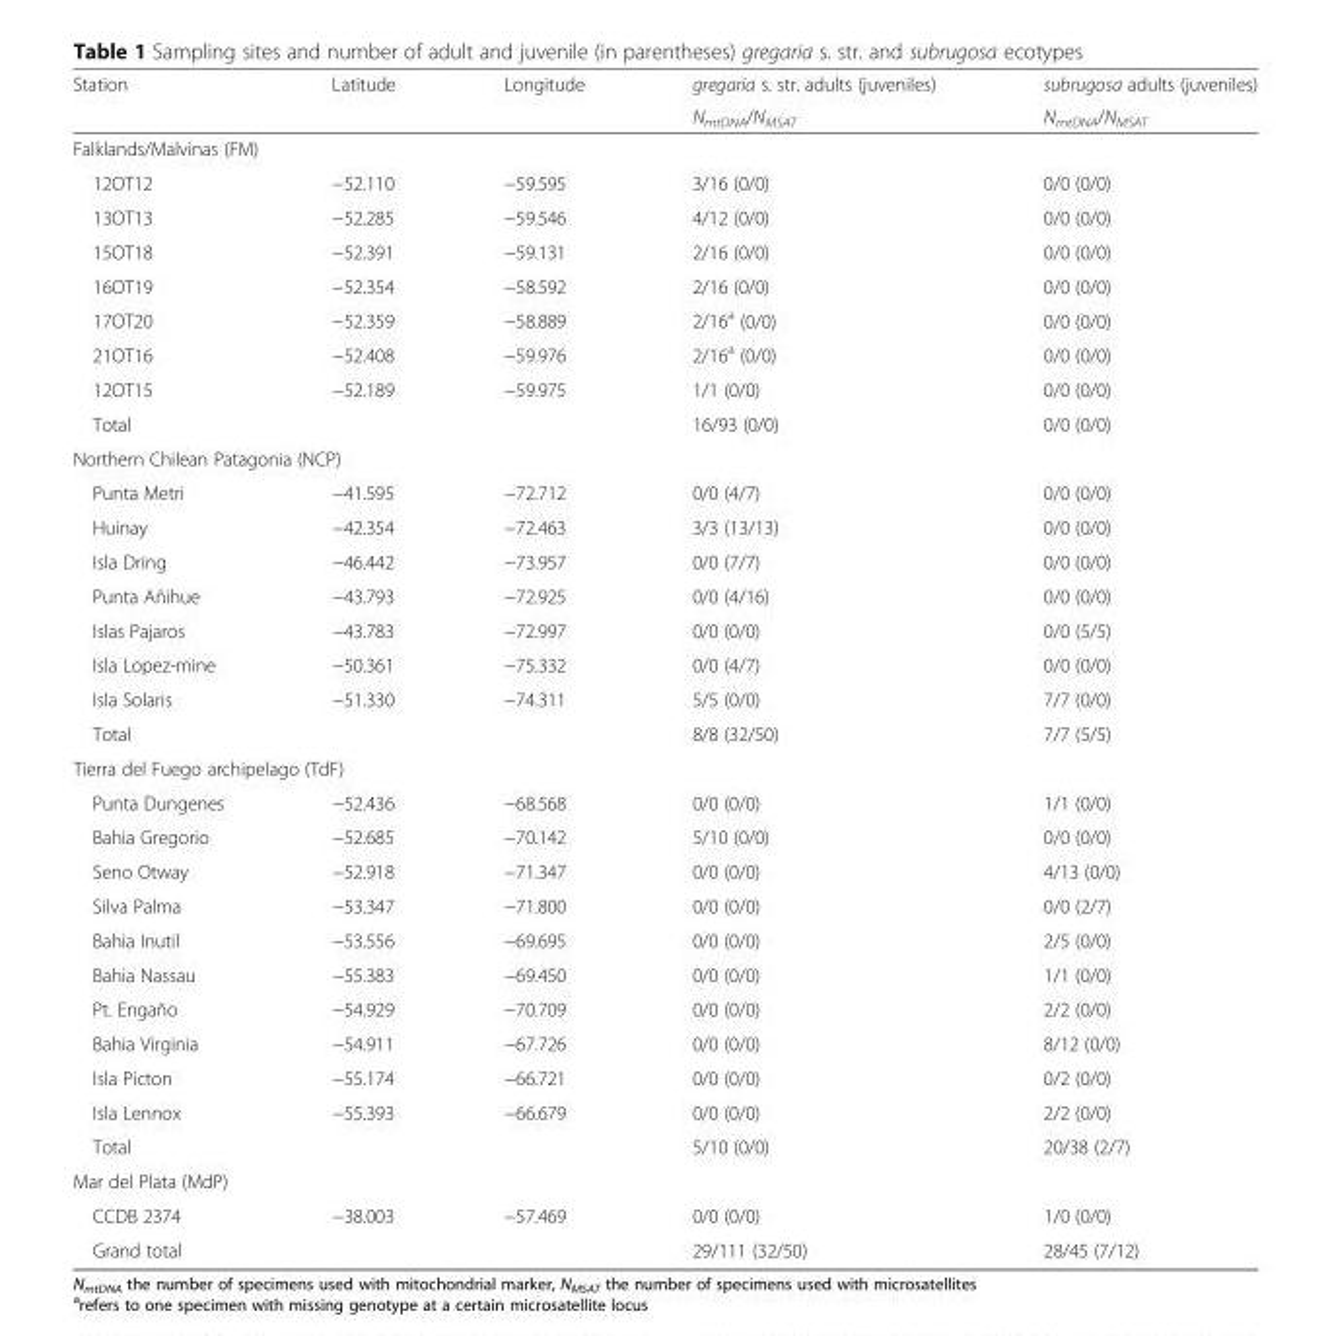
<table><thead><tr><td rowspan="2">Station</td><td rowspan="2">Latitude</td><td rowspan="2">Longitude</td><td rowspan="2">gregaria s. str. adults (juveniles) N<sub>mtDNA</sub>/N<sub>MSAT</sub></td><td rowspan="2">subrugosa adults (juveniles) N<sub>mtDNA</sub>/N<sub>MSAT</sub></td></tr><tr></tr></thead><tbody><tr><td colspan="5">Falklands/Malvinas (FM)</td></tr><tr><td>12OT12</td><td>−52.110</td><td>−59.595</td><td>3/16 (0/0)</td><td>0/0 (0/0)</td></tr><tr><td>13OT13</td><td>−52.285</td><td>−59.546</td><td>4/12 (0/0)</td><td>0/0 (0/0)</td></tr><tr><td>15OT18</td><td>−52.391</td><td>−59.131</td><td>2/16 (0/0)</td><td>0/0 (0/0)</td></tr><tr><td>16OT19</td><td>−52.354</td><td>−58.592</td><td>2/16 (0/0)</td><td>0/0 (0/0)</td></tr><tr><td>17OT20</td><td>−52.359</td><td>−58.889</td><td>2/16<sup>a</sup> (0/0)</td><td>0/0 (0/0)</td></tr><tr><td>21OT16</td><td>−52.408</td><td>−59.976</td><td>2/16<sup>a</sup> (0/0)</td><td>0/0 (0/0)</td></tr><tr><td>12OT15</td><td>−52.189</td><td>−59.975</td><td>1/1 (0/0)</td><td>0/0 (0/0)</td></tr><tr><td>Total</td><td></td><td></td><td>16/93 (0/0)</td><td>0/0 (0/0)</td></tr><tr><td colspan="5">Northern Chilean Patagonia (NCP)</td></tr><tr><td>Punta Metri</td><td>−41.595</td><td>−72.712</td><td>0/0 (4/7)</td><td>0/0 (0/0)</td></tr><tr><td>Huinay</td><td>−42.354</td><td>−72.463</td><td>3/3 (13/13)</td><td>0/0 (0/0)</td></tr><tr><td>Isla Dring</td><td>−46.442</td><td>−73.957</td><td>0/0 (7/7)</td><td>0/0 (0/0)</td></tr><tr><td>Punta Añihue</td><td>−43.793</td><td>−72.925</td><td>0/0 (4/16)</td><td>0/0 (0/0)</td></tr><tr><td>Islas Pajaros</td><td>−43.783</td><td>−72.997</td><td>0/0 (0/0)</td><td>0/0 (5/5)</td></tr><tr><td>Isla Lopez-mine</td><td>−50.361</td><td>−75.332</td><td>0/0 (4/7)</td><td>0/0 (0/0)</td></tr><tr><td>Isla Solaris</td><td>−51.330</td><td>−74.311</td><td>5/5 (0/0)</td><td>7/7 (0/0)</td></tr><tr><td>Total</td><td></td><td></td><td>8/8 (32/50)</td><td>7/7 (5/5)</td></tr><tr><td colspan="5">Tierra del Fuego archipelago (TdF)</td></tr><tr><td>Punta Dungenes</td><td>−52.436</td><td>−68.568</td><td>0/0 (0/0)</td><td>1/1 (0/0)</td></tr><tr><td>Bahia Gregorio</td><td>−52.685</td><td>−70.142</td><td>5/10 (0/0)</td><td>0/0 (0/0)</td></tr><tr><td>Seno Otway</td><td>−52.918</td><td>−71.347</td><td>0/0 (0/0)</td><td>4/13 (0/0)</td></tr><tr><td>Silva Palma</td><td>−53.347</td><td>−71.800</td><td>0/0 (0/0)</td><td>0/0 (2/7)</td></tr><tr><td>Bahia Inutil</td><td>−53.556</td><td>−69.695</td><td>0/0 (0/0)</td><td>2/5 (0/0)</td></tr><tr><td>Bahia Nassau</td><td>−55.383</td><td>−69.450</td><td>0/0 (0/0)</td><td>1/1 (0/0)</td></tr><tr><td>Pt. Engaño</td><td>−54.929</td><td>−70.709</td><td>0/0 (0/0)</td><td>2/2 (0/0)</td></tr><tr><td>Bahia Virginia</td><td>−54.911</td><td>−67.726</td><td>0/0 (0/0)</td><td>8/12 (0/0)</td></tr><tr><td>Isla Picton</td><td>−55.174</td><td>−66.721</td><td>0/0 (0/0)</td><td>0/2 (0/0)</td></tr><tr><td>Isla Lennox</td><td>−55.393</td><td>−66.679</td><td>0/0 (0/0)</td><td>2/2 (0/0)</td></tr><tr><td>Total</td><td></td><td></td><td>5/10 (0/0)</td><td>20/38 (2/7)</td></tr><tr><td colspan="5">Mar del Plata (MdP)</td></tr><tr><td>CCDB 2374</td><td>−38.003</td><td>−57.469</td><td>0/0 (0/0)</td><td>1/0 (0/0)</td></tr><tr><td>Grand total</td><td></td><td></td><td>29/111 (32/50)</td><td>28/45 (7/12)</td></tr></tbody></table>